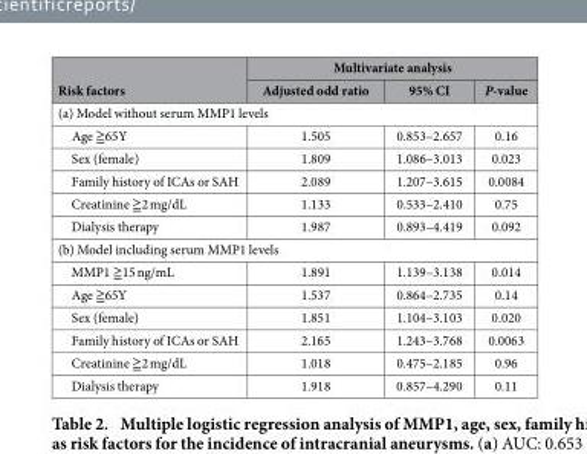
<table><thead><tr><td rowspan="2">Risk factors</td><td colspan="3">Multivariate analysis</td></tr><tr><td>Adjusted odd ratio</td><td>95% CI</td><td>P-value</td></tr></thead><tbody><tr><td colspan="4">(a) Model without serum MMP1 levels</td></tr><tr><td>Age ≧ 65Y</td><td>1.505</td><td>0.853–2.657</td><td>0.16</td></tr><tr><td>Sex (female)</td><td>1.809</td><td>1.086–3.013</td><td>0.023</td></tr><tr><td>Family history of ICAs or SAH</td><td>2.089</td><td>1.207–3.615</td><td>0.0084</td></tr><tr><td>Creatinine ≧ 2 mg/dL</td><td>1.133</td><td>0.533–2.410</td><td>0.75</td></tr><tr><td>Dialysis therapy</td><td>1.987</td><td>0.893–4.419</td><td>0.092</td></tr><tr><td colspan="4">(b) Model including serum MMP1 levels</td></tr><tr><td>MMP1 ≧ 15 ng/mL</td><td>1.891</td><td>1.139–3.138</td><td>0.014</td></tr><tr><td>Age ≧ 65Y</td><td>1.537</td><td>0.864–2.735</td><td>0.14</td></tr><tr><td>Sex (female)</td><td>1.851</td><td>1.104–3.103</td><td>0.020</td></tr><tr><td>Family history of ICAs or SAH</td><td>2.165</td><td>1.243–3.768</td><td>0.0063</td></tr><tr><td>Creatinine ≧ 2 mg/dL</td><td>1.018</td><td>0.475–2.185</td><td>0.96</td></tr><tr><td>Dialysis therapy</td><td>1.918</td><td>0.857–4.290</td><td>0.11</td></tr></tbody></table>